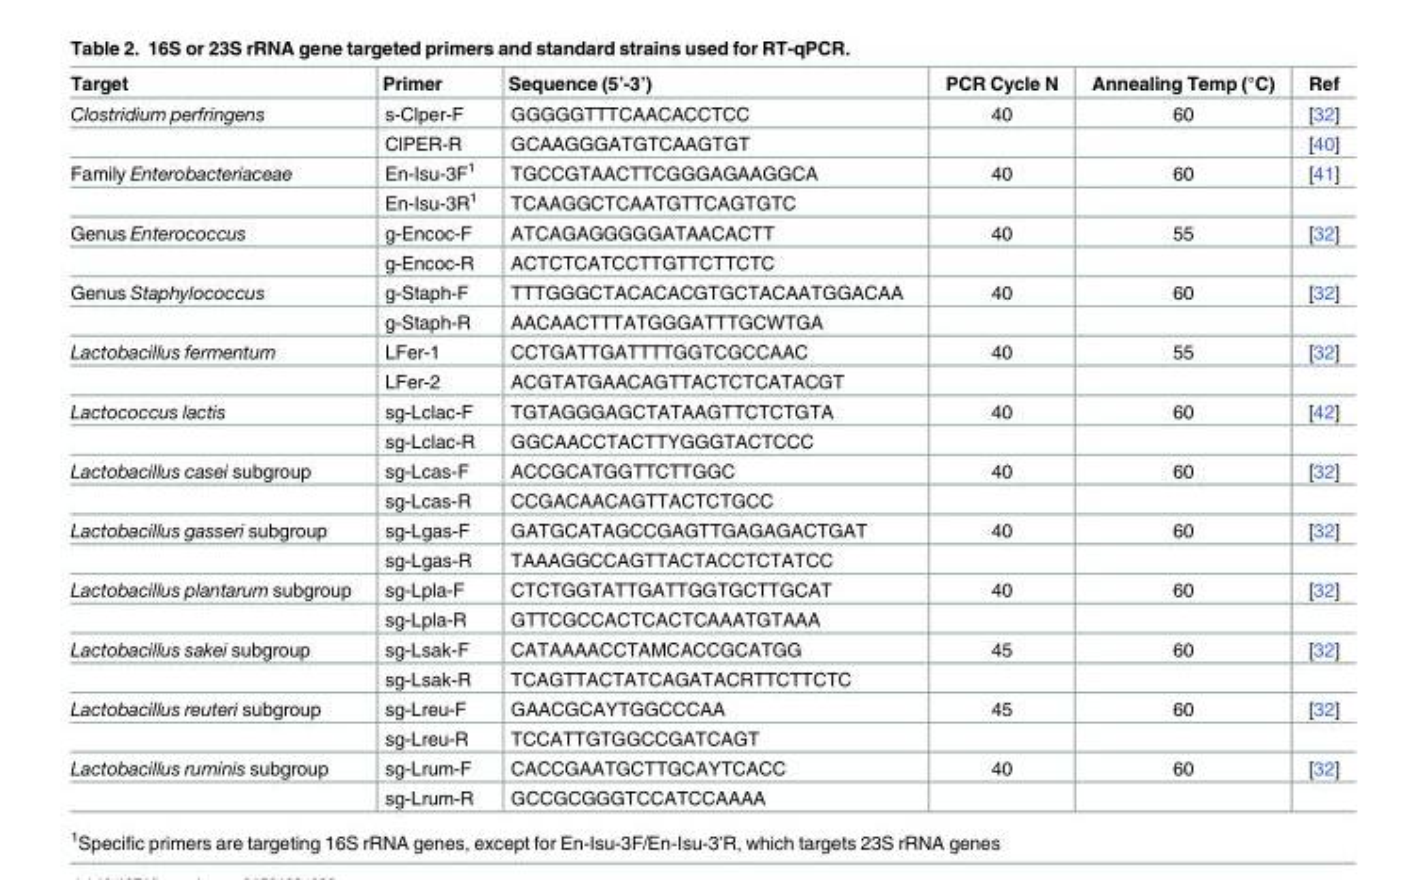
<table><thead><tr><td>Target</td><td>Primer</td><td>Sequence (5’-3’)</td><td>PCR Cycle N</td><td>Annealing Temp (°C)</td><td>Ref</td></tr></thead><tbody><tr><td rowspan="2">Clostridium perfringens</td><td>s-Clper-F</td><td>GGGGGTTTCAACACCTCC</td><td>40</td><td>60</td><td>[32]</td></tr><tr><td>ClPER-R</td><td>GCAAGGGATGTCAAGTGT</td><td></td><td></td><td>[40]</td></tr><tr><td rowspan="2">Family Enterobacteriaceae</td><td>En-Isu-3F<sup>1</sup></td><td>TGCCGTAACTTCGGGAGAAGGCA</td><td>40</td><td>60</td><td>[41]</td></tr><tr><td>En-Isu-3R<sup>1</sup></td><td>TCAAGGCTCAATGTTCAGTGTC</td><td></td><td></td><td></td></tr><tr><td rowspan="2">Genus Enterococcus</td><td>g-Encoc-F</td><td>ATCAGAGGGGGATAACACTT</td><td>40</td><td>55</td><td>[32]</td></tr><tr><td>g-Encoc-R</td><td>ACTCTCATCCTTGTTCTTCTC</td><td></td><td></td><td></td></tr><tr><td rowspan="2">Genus Staphylococcus</td><td>g-Staph-F</td><td>TTTGGGCTACACACGTGCTACAATGGACAA</td><td>40</td><td>60</td><td>[32]</td></tr><tr><td>g-Staph-R</td><td>AACAACTTTATGGGATTTGCWTGA</td><td></td><td></td><td></td></tr><tr><td rowspan="2">Lactobacillus fermentum</td><td>LFer-1</td><td>CCTGATTGATTTTGGTCGCCAAC</td><td>40</td><td>55</td><td>[32]</td></tr><tr><td>LFer-2</td><td>ACGTATGAACAGTTACTCTCATACGT</td><td></td><td></td><td></td></tr><tr><td rowspan="2">Lactococcus lactis</td><td>sg-Lclac-F</td><td>TGTAGGGAGCTATAAGTTCTCTGTA</td><td>40</td><td>60</td><td>[42]</td></tr><tr><td>sg-Lclac-R</td><td>GGCAACCTACTTYGGGTACTCCC</td><td></td><td></td><td></td></tr><tr><td rowspan="2">Lactobacillus casei subgroup</td><td>sg-Lcas-F</td><td>ACCGCATGGTTCTTGGC</td><td>40</td><td>60</td><td>[32]</td></tr><tr><td>sg-Lcas-R</td><td>CCGACAACAGTTACTCTGCC</td><td></td><td></td><td></td></tr><tr><td rowspan="2">Lactobacillus gasseri subgroup</td><td>sg-Lgas-F</td><td>GATGCATAGCCGAGTTGAGAGACTGAT</td><td>40</td><td>60</td><td>[32]</td></tr><tr><td>sg-Lgas-R</td><td>TAAAGGCCAGTTACTACCTCTATCC</td><td></td><td></td><td></td></tr><tr><td rowspan="2">Lactobacillus plantarum subgroup</td><td>sg-Lpla-F</td><td>CTCTGGTATTGATTGGTGCTTGCAT</td><td>40</td><td>60</td><td>[32]</td></tr><tr><td>sg-Lpla-R</td><td>GTTCGCCACTCACTCAAATGTAAA</td><td></td><td></td><td></td></tr><tr><td rowspan="2">Lactobacillus sakei subgroup</td><td>sg-Lsak-F</td><td>CATAAAACCTAMCACCGCATGG</td><td>45</td><td>60</td><td>[32]</td></tr><tr><td>sg-Lsak-R</td><td>TCAGTTACTATCAGATACRTTCTTCTC</td><td></td><td></td><td></td></tr><tr><td rowspan="2">Lactobacillus reuteri subgroup</td><td>sg-Lreu-F</td><td>GAACGCAYTGGCCCAA</td><td>45</td><td>60</td><td>[32]</td></tr><tr><td>sg-Lreu-R</td><td>TCCATTGTGGCCGATCAGT</td><td></td><td></td><td></td></tr><tr><td rowspan="2">Lactobacillus ruminis subgroup</td><td>sg-Lrum-F</td><td>CACCGAATGCTTGCAYTCACC</td><td>40</td><td>60</td><td>[32]</td></tr><tr><td>sg-Lrum-R</td><td>GCCGCGGGTCCATCCAAAA</td><td></td><td></td><td></td></tr></tbody></table>